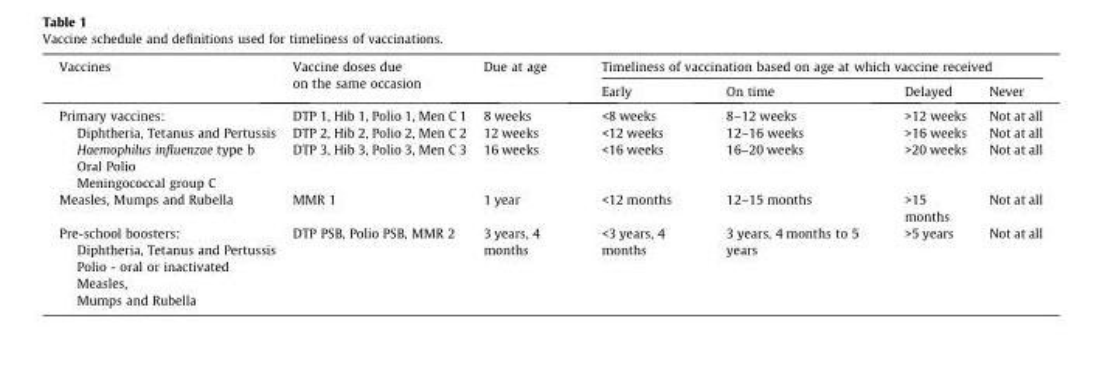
<table><thead><tr><td rowspan="2">Vaccines</td><td rowspan="2">Vaccine doses due on the same occasion</td><td rowspan="2">Due at age</td><td colspan="4">Timeliness of vaccination based on age at which vaccine received</td></tr><tr><td>Early</td><td>On time</td><td>Delayed</td><td>Never</td></tr></thead><tbody><tr><td rowspan="3">Primary vaccines: Diphtheria, Tetanus and Pertussis Haemophilus influenzae type b Oral Polio Meningococcal group C</td><td>DTP 1, Hib 1, Polio 1, Men C 1</td><td>8 weeks</td><td>&lt;8 weeks</td><td>8–12 weeks</td><td>&gt;12 weeks</td><td>Not at all</td></tr><tr><td>DTP 2, Hib 2, Polio 2, Men C 2</td><td>12 weeks</td><td>&lt;12 weeks</td><td>12–16 weeks</td><td>&gt;16 weeks</td><td>Not at all</td></tr><tr><td>DTP 3, Hib 3, Polio 3, Men C 3</td><td>16 weeks</td><td>&lt;16 weeks</td><td>16–20 weeks</td><td>&gt;20 weeks</td><td>Not at all</td></tr><tr><td>Measles, Mumps and Rubella</td><td>MMR 1</td><td>1 year</td><td>&lt;12 months</td><td>12–15 months</td><td>&gt;15 months</td><td>Not at all</td></tr><tr><td>Pre-school boosters: Diphtheria, Tetanus and Pertussis Polio - oral or inactivated Measles, Mumps and Rubella</td><td>DTP PSB, Polio PSB, MMR 2</td><td>3 years, 4 months</td><td>&lt;3 years, 4 months</td><td>3 years, 4 months to 5 years</td><td>&gt;5 years</td><td>Not at all</td></tr></tbody></table>